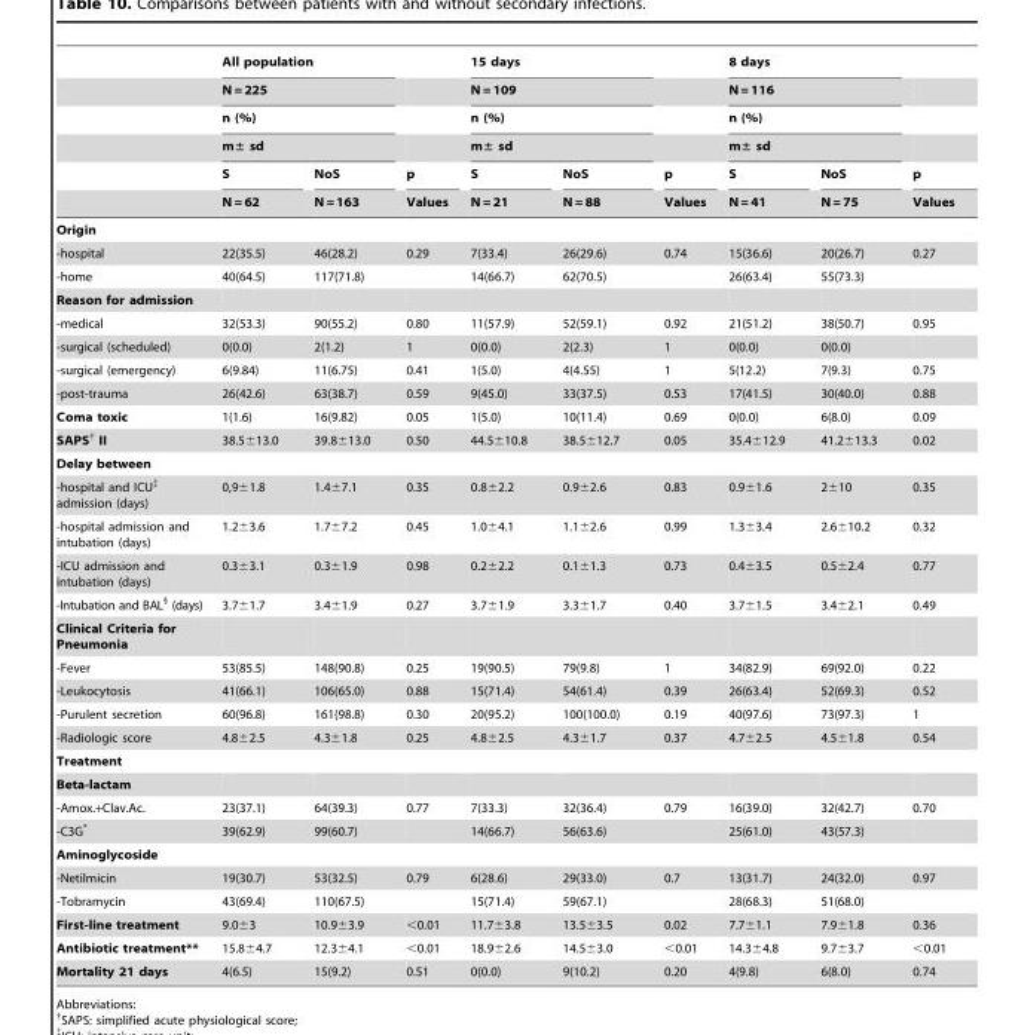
<table><thead><tr><td rowspan="6"></td><td rowspan="4" colspan="2">All population N = 225 n (%) m± sd</td><td rowspan="6">p Values</td><td rowspan="4" colspan="2">15 days N = 109 n (%) m± sd</td><td rowspan="6">p Values</td><td rowspan="4" colspan="2">8 days N = 116 n (%) m± sd</td><td rowspan="6">p Values</td></tr><tr></tr><tr></tr><tr></tr><tr><td rowspan="2">S N = 62</td><td rowspan="2">NoS N = 163</td><td rowspan="2">S N = 21</td><td rowspan="2">NoS N = 88</td><td rowspan="2">S N = 41</td><td rowspan="2">NoS N = 75</td></tr><tr></tr></thead><tbody><tr><td colspan="10">Origin</td></tr><tr><td>-hospital</td><td>22(35.5)</td><td>46(28.2)</td><td>0.29</td><td>7(33.4)</td><td>26(29.6)</td><td>0.74</td><td>15(36.6)</td><td>20(26.7)</td><td>0.27</td></tr><tr><td>-home</td><td>40(64.5)</td><td>117(71.8)</td><td></td><td>14(66.7)</td><td>62(70.5)</td><td></td><td>26(63.4)</td><td>55(73.3)</td><td></td></tr><tr><td colspan="10">Reason for admission</td></tr><tr><td>-medical</td><td>32(53.3)</td><td>90(55.2)</td><td>0.80</td><td>11(57.9)</td><td>52(59.1)</td><td>0.92</td><td>21(51.2)</td><td>38(50.7)</td><td>0.95</td></tr><tr><td>-surgical (scheduled)</td><td>0(0.0)</td><td>2(1.2)</td><td>1</td><td>0(0.0)</td><td>2(2.3)</td><td>1</td><td>0(0.0)</td><td>0(0.0)</td><td></td></tr><tr><td>-surgical (emergency)</td><td>6(9.84)</td><td>11(6.75)</td><td>0.41</td><td>1(5.0)</td><td>4(4.55)</td><td>1</td><td>5(12.2)</td><td>7(9.3)</td><td>0.75</td></tr><tr><td>-post-trauma</td><td>26(42.6)</td><td>63(38.7)</td><td>0.59</td><td>9(45.0)</td><td>33(37.5)</td><td>0.53</td><td>17(41.5)</td><td>30(40.0)</td><td>0.88</td></tr><tr><td>Coma toxic</td><td>1(1.6)</td><td>16(9.82)</td><td>0.05</td><td>1(5.0)</td><td>10(11.4)</td><td>0.69</td><td>0(0.0)</td><td>6(8.0)</td><td>0.09</td></tr><tr><td>SAPS† II</td><td>38.5±13.0</td><td>39.8±13.0</td><td>0.50</td><td>44.5±10.8</td><td>38.5±12.7</td><td>0.05</td><td>35.4±12.9</td><td>41.2±13.3</td><td>0.02</td></tr><tr><td colspan="10">Delay between</td></tr><tr><td>-hospital and ICU‡ admission (days)</td><td>0,9±1.8</td><td>1.4±7.1</td><td>0.35</td><td>0.8±2.2</td><td>0.9±2.6</td><td>0.83</td><td>0.9±1.6</td><td>2±10</td><td>0.35</td></tr><tr><td>-hospital admission and intubation (days)</td><td>1.2±3.6</td><td>1.7±7.2</td><td>0.45</td><td>1.0±4.1</td><td>1.1±2.6</td><td>0.99</td><td>1.3±3.4</td><td>2.6±10.2</td><td>0.32</td></tr><tr><td>-ICU admission and intubation (days)</td><td>0.3±3.1</td><td>0.3±1.9</td><td>0.98</td><td>0.2±2.2</td><td>0.1±1.3</td><td>0.73</td><td>0.4±3.5</td><td>0.5±2.4</td><td>0.77</td></tr><tr><td>-Intubation and BAL§ (days)</td><td>3.7±1.7</td><td>3.4±1.9</td><td>0.27</td><td>3.7±1.9</td><td>3.3±1.7</td><td>0.40</td><td>3.7±1.5</td><td>3.4±2.1</td><td>0.49</td></tr><tr><td colspan="10">Clinical Criteria for Pneumonia</td></tr><tr><td>-Fever</td><td>53(85.5)</td><td>148(90.8)</td><td>0.25</td><td>19(90.5)</td><td>79(9.8)</td><td>1</td><td>34(82.9)</td><td>69(92.0)</td><td>0.22</td></tr><tr><td>-Leukocytosis</td><td>41(66.1)</td><td>106(65.0)</td><td>0.88</td><td>15(71.4)</td><td>54(61.4)</td><td>0.39</td><td>26(63.4)</td><td>52(69.3)</td><td>0.52</td></tr><tr><td>-Purulent secretion</td><td>60(96.8)</td><td>161(98.8)</td><td>0.30</td><td>20(95.2)</td><td>100(100.0)</td><td>0.19</td><td>40(97.6)</td><td>73(97.3)</td><td>1</td></tr><tr><td>-Radiologic score</td><td>4.8±2.5</td><td>4.3±1.8</td><td>0.25</td><td>4.8±2.5</td><td>4.3±1.7</td><td>0.37</td><td>4.7±2.5</td><td>4.5±1.8</td><td>0.54</td></tr><tr><td colspan="10">Treatment</td></tr><tr><td colspan="10">Beta-lactam</td></tr><tr><td>-Amox.+Clav.Ac.</td><td>23(37.1)</td><td>64(39.3)</td><td>0.77</td><td>7(33.3)</td><td>32(36.4)</td><td>0.79</td><td>16(39.0)</td><td>32(42.7)</td><td>0.70</td></tr><tr><td>-C3G*</td><td>39(62.9)</td><td>99(60.7)</td><td></td><td>14(66.7)</td><td>56(63.6)</td><td></td><td>25(61.0)</td><td>43(57.3)</td><td></td></tr><tr><td colspan="10">Aminoglycoside</td></tr><tr><td>-Netilmicin</td><td>19(30.7)</td><td>53(32.5)</td><td>0.79</td><td>6(28.6)</td><td>29(33.0)</td><td>0.7</td><td>13(31.7)</td><td>24(32.0)</td><td>0.97</td></tr><tr><td>-Tobramycin</td><td>43(69.4)</td><td>110(67.5)</td><td></td><td>15(71.4)</td><td>59(67.1)</td><td></td><td>28(68.3)</td><td>51(68.0)</td><td></td></tr><tr><td>First-line treatment</td><td>9.0±3</td><td>10.9±3.9</td><td>&lt;0.01</td><td>11.7±3.8</td><td>13.5±3.5</td><td>0.02</td><td>7.7±1.1</td><td>7.9±1.8</td><td>0.36</td></tr><tr><td>Antibiotic treatment**</td><td>15.8±4.7</td><td>12.3±4.1</td><td>&lt;0.01</td><td>18.9±2.6</td><td>14.5±3.0</td><td>&lt;0.01</td><td>14.3±4.8</td><td>9.7±3.7</td><td>&lt;0.01</td></tr><tr><td>Mortality 21 days</td><td>4(6.5)</td><td>15(9.2)</td><td>0.51</td><td>0(0.0)</td><td>9(10.2)</td><td>0.20</td><td>4(9.8)</td><td>6(8.0)</td><td>0.74</td></tr></tbody></table>